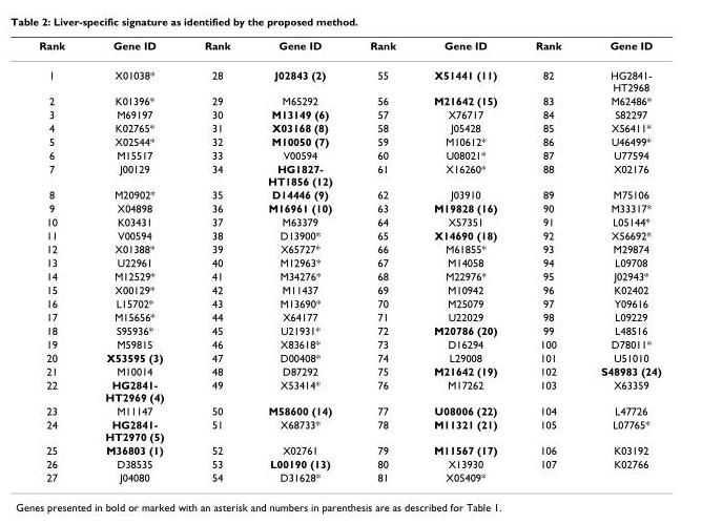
<table><thead><tr><td>Rank</td><td>Gene ID</td><td>Rank</td><td>Gene ID</td><td>Rank</td><td>Gene ID</td><td>Rank</td><td>Gene ID</td></tr></thead><tbody><tr><td>1</td><td>X01038*</td><td>28</td><td>J02843 (2)</td><td>55</td><td>X51441 (11)</td><td>82</td><td>HG2841- HT2968</td></tr><tr><td>2</td><td>K01396*</td><td>29</td><td>M65292</td><td>56</td><td>M21642 (15)</td><td>83</td><td>M62486*</td></tr><tr><td>3</td><td>M69197</td><td>30</td><td>M13149 (6)</td><td>57</td><td>X76717</td><td>84</td><td>S82297</td></tr><tr><td>4</td><td>K02765*</td><td>31</td><td>X03168 (8)</td><td>58</td><td>J05428</td><td>85</td><td>X56411*</td></tr><tr><td>5</td><td>X02544*</td><td>32</td><td>M10050 (7)</td><td>59</td><td>M10612*</td><td>86</td><td>U46499*</td></tr><tr><td>6</td><td>M15517</td><td>33</td><td>V00594</td><td>60</td><td>U08021*</td><td>87</td><td>U77594</td></tr><tr><td>7</td><td>J00129</td><td>34</td><td>HG1827- HT1856 (12)</td><td>61</td><td>X16260*</td><td>88</td><td>X02176</td></tr><tr><td>8</td><td>M20902*</td><td>35</td><td>D14446 (9)</td><td>62</td><td>J03910</td><td>89</td><td>M75106</td></tr><tr><td>9</td><td>X04898</td><td>36</td><td>M16961 (10)</td><td>63</td><td>M19828 (16)</td><td>90</td><td>M33317*</td></tr><tr><td>10</td><td>K03431</td><td>37</td><td>M63379</td><td>64</td><td>X57351</td><td>91</td><td>L05144*</td></tr><tr><td>11</td><td>V00594</td><td>38</td><td>D13900*</td><td>65</td><td>X14690 (18)</td><td>92</td><td>X56692*</td></tr><tr><td>12</td><td>X01388*</td><td>39</td><td>X65727*</td><td>66</td><td>M61855*</td><td>93</td><td>M29874</td></tr><tr><td>13</td><td>U22961</td><td>40</td><td>M12963*</td><td>67</td><td>M14058</td><td>94</td><td>L09708</td></tr><tr><td>14</td><td>M12529*</td><td>41</td><td>M34276*</td><td>68</td><td>M22976*</td><td>95</td><td>J02943*</td></tr><tr><td>15</td><td>X00129*</td><td>42</td><td>M11437</td><td>69</td><td>M10942</td><td>96</td><td>K02402</td></tr><tr><td>16</td><td>L15702*</td><td>43</td><td>M13690*</td><td>70</td><td>M25079</td><td>97</td><td>Y09616</td></tr><tr><td>17</td><td>M15656*</td><td>44</td><td>X64177</td><td>71</td><td>U22029</td><td>98</td><td>L09229</td></tr><tr><td>18</td><td>S95936*</td><td>45</td><td>U21931*</td><td>72</td><td>M20786 (20)</td><td>99</td><td>L48516</td></tr><tr><td>19</td><td>M59815</td><td>46</td><td>X83618*</td><td>73</td><td>D16294</td><td>100</td><td>D78011*</td></tr><tr><td>20</td><td>X53595 (3)</td><td>47</td><td>D00408*</td><td>74</td><td>L29008</td><td>101</td><td>U51010</td></tr><tr><td>21</td><td>M10014</td><td>48</td><td>D87292</td><td>75</td><td>M21642 (19)</td><td>102</td><td>S48983 (24)</td></tr><tr><td>22</td><td>HG2841- HT2969 (4)</td><td>49</td><td>X53414*</td><td>76</td><td>M17262</td><td>103</td><td>X63359</td></tr><tr><td>23</td><td>M11147</td><td>50</td><td>M58600 (14)</td><td>77</td><td>U08006 (22)</td><td>104</td><td>L47726</td></tr><tr><td>24</td><td>HG2841- HT2970 (5)</td><td>51</td><td>X68733*</td><td>78</td><td>M11321 (21)</td><td>105</td><td>L07765*</td></tr><tr><td>25</td><td>M36803 (1)</td><td>52</td><td>X02761</td><td>79</td><td>M11567 (17)</td><td>106</td><td>K03192</td></tr><tr><td>26</td><td>D38535</td><td>53</td><td>L00190 (13)</td><td>80</td><td>X13930</td><td>107</td><td>K02766</td></tr><tr><td>27</td><td>J04080</td><td>54</td><td>D31628*</td><td>81</td><td>X05409*</td><td></td><td></td></tr></tbody></table>